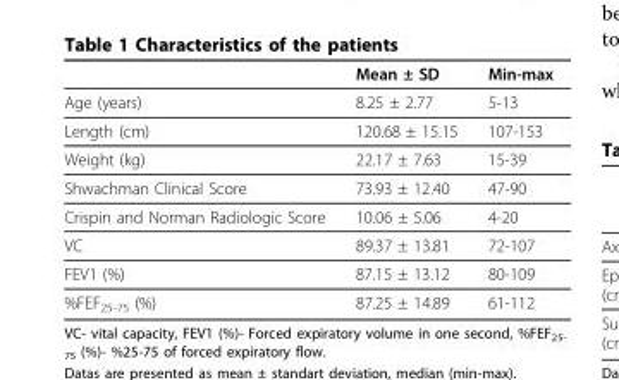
<table><thead><tr><td></td><td>Mean ± SD</td><td>Min-max</td></tr></thead><tbody><tr><td>Age (years)</td><td>8.25 ± 2.77</td><td>5-13</td></tr><tr><td>Length (cm)</td><td>120.68 ± 15.15</td><td>107-153</td></tr><tr><td>Weight (kg)</td><td>22.17 ± 7.63</td><td>15-39</td></tr><tr><td>Shwachman Clinical Score</td><td>73.93 ± 12.40</td><td>47-90</td></tr><tr><td>Crispin and Norman Radiologic Score</td><td>10.06 ± 5.06</td><td>4-20</td></tr><tr><td>VC</td><td>89.37 ± 13.81</td><td>72-107</td></tr><tr><td>FEV1 (%)</td><td>87.15 ± 13.12</td><td>80-109</td></tr><tr><td>%FEF<sub>25-75</sub> (%)</td><td>87.25 ± 14.89</td><td>61-112</td></tr></tbody></table>